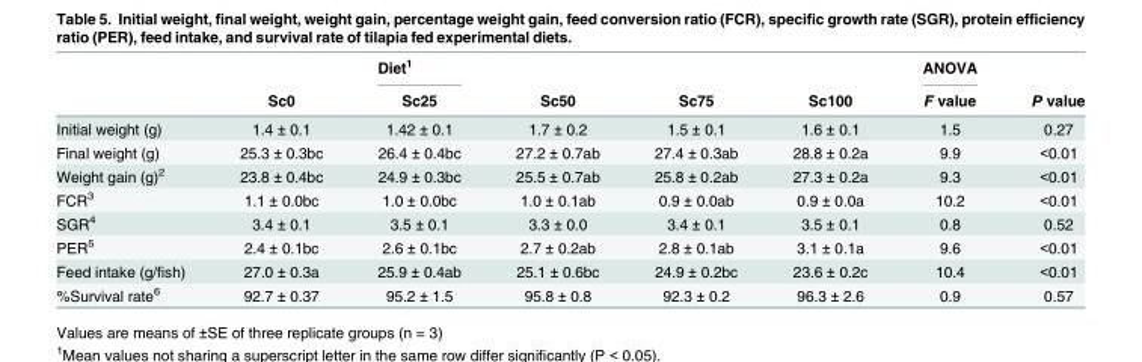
<table><thead><tr><td rowspan="2"></td><td rowspan="2">Sc0</td><td rowspan="2">Diet<sup>1</sup> Sc25</td><td rowspan="2">Sc50</td><td rowspan="2">Sc75</td><td rowspan="2">Sc100</td><td rowspan="2">ANOVA F value</td><td rowspan="2">P value</td></tr><tr></tr></thead><tbody><tr><td>Initial weight (g)</td><td>1.4 ± 0.1</td><td>1.42 ± 0.1</td><td>1.7 ± 0.2</td><td>1.5 ± 0.1</td><td>1.6 ± 0.1</td><td>1.5</td><td>0.27</td></tr><tr><td>Final weight (g)</td><td>25.3 ± 0.3bc</td><td>26.4 ± 0.4bc</td><td>27.2 ± 0.7ab</td><td>27.4 ± 0.3ab</td><td>28.8 ± 0.2a</td><td>9.9</td><td>&lt;0.01</td></tr><tr><td>Weight gain (g)<sup>2</sup></td><td>23.8 ± 0.4bc</td><td>24.9 ± 0.3bc</td><td>25.5 ± 0.7ab</td><td>25.8 ± 0.2ab</td><td>27.3 ± 0.2a</td><td>9.3</td><td>&lt;0.01</td></tr><tr><td>FCR<sup>3</sup></td><td>1.1 ± 0.0bc</td><td>1.0 ± 0.0bc</td><td>1.0 ± 0.1ab</td><td>0.9 ± 0.0ab</td><td>0.9 ± 0.0a</td><td>10.2</td><td>&lt;0.01</td></tr><tr><td>SGR<sup>4</sup></td><td>3.4 ± 0.1</td><td>3.5 ± 0.1</td><td>3.3 ± 0.0</td><td>3.4 ± 0.1</td><td>3.5 ± 0.1</td><td>0.8</td><td>0.52</td></tr><tr><td>PER<sup>5</sup></td><td>2.4 ± 0.1bc</td><td>2.6 ± 0.1bc</td><td>2.7 ± 0.2ab</td><td>2.8 ± 0.1ab</td><td>3.1 ± 0.1a</td><td>9.6</td><td>&lt;0.01</td></tr><tr><td>Feed intake (g/fish)</td><td>27.0 ± 0.3a</td><td>25.9 ± 0.4ab</td><td>25.1 ± 0.6bc</td><td>24.9 ± 0.2bc</td><td>23.6 ± 0.2c</td><td>10.4</td><td>&lt;0.01</td></tr><tr><td>%Survival rate<sup>6</sup></td><td>92.7 ± 0.37</td><td>95.2 ± 1.5</td><td>95.8 ± 0.8</td><td>92.3 ± 0.2</td><td>96.3 ± 2.6</td><td>0.9</td><td>0.57</td></tr></tbody></table>